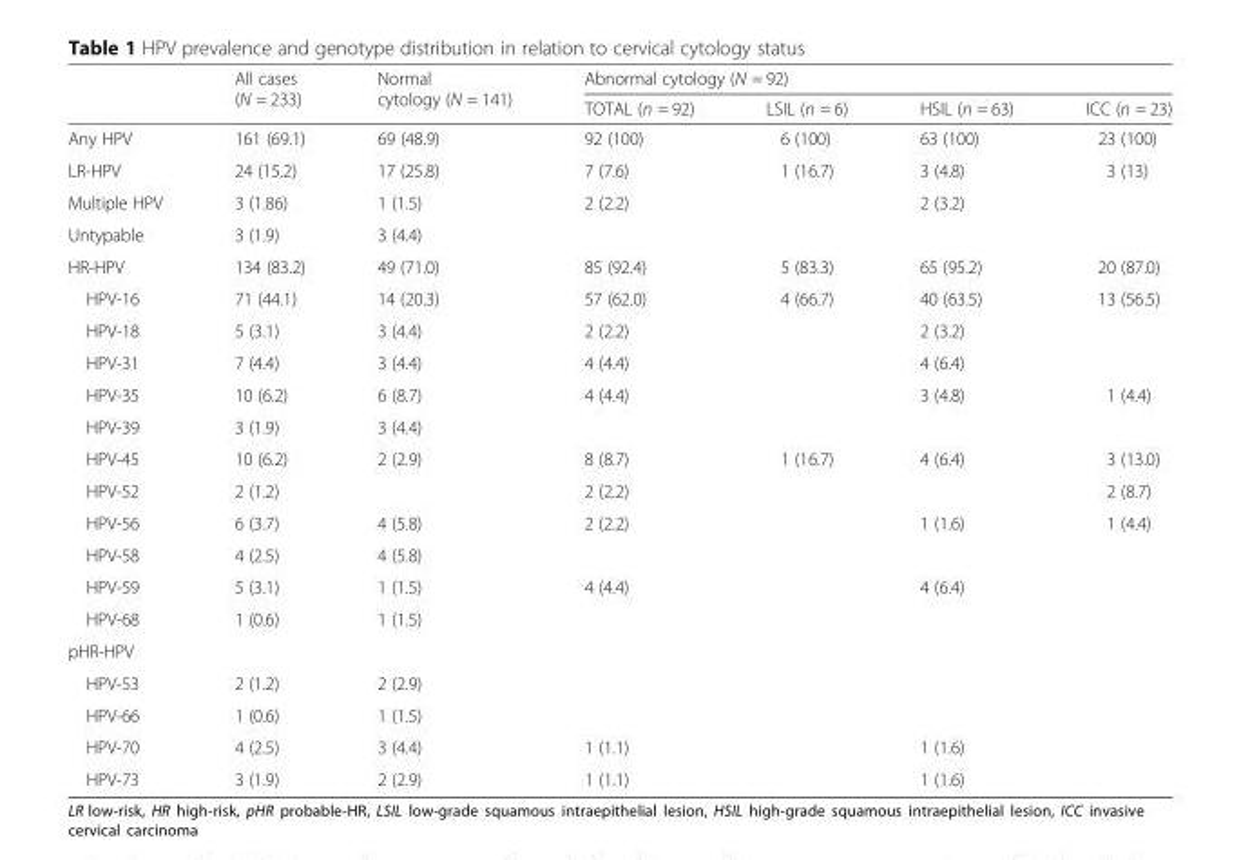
<table><thead><tr><td rowspan="2"></td><td rowspan="2">All cases (N = 233)</td><td rowspan="2">Normal cytology (N = 141)</td><td colspan="4">Abnormal cytology (N = 92)</td></tr><tr><td>TOTAL (n = 92)</td><td>LSIL (n = 6)</td><td>HSIL (n = 63)</td><td>ICC (n = 23)</td></tr></thead><tbody><tr><td>Any HPV</td><td>161 (69.1)</td><td>69 (48.9)</td><td>92 (100)</td><td>6 (100)</td><td>63 (100)</td><td>23 (100)</td></tr><tr><td>LR-HPV</td><td>24 (15.2)</td><td>17 (25.8)</td><td>7 (7.6)</td><td>1 (16.7)</td><td>3 (4.8)</td><td>3 (13)</td></tr><tr><td>Multiple HPV</td><td>3 (1.86)</td><td>1 (1.5)</td><td>2 (2.2)</td><td></td><td>2 (3.2)</td><td></td></tr><tr><td>Untypable</td><td>3 (1.9)</td><td>3 (4.4)</td><td></td><td></td><td></td><td></td></tr><tr><td>HR-HPV</td><td>134 (83.2)</td><td>49 (71.0)</td><td>85 (92.4)</td><td>5 (83.3)</td><td>65 (95.2)</td><td>20 (87.0)</td></tr><tr><td>HPV-16</td><td>71 (44.1)</td><td>14 (20.3)</td><td>57 (62.0)</td><td>4 (66.7)</td><td>40 (63.5)</td><td>13 (56.5)</td></tr><tr><td>HPV-18</td><td>5 (3.1)</td><td>3 (4.4)</td><td>2 (2.2)</td><td></td><td>2 (3.2)</td><td></td></tr><tr><td>HPV-31</td><td>7 (4.4)</td><td>3 (4.4)</td><td>4 (4.4)</td><td></td><td>4 (6.4)</td><td></td></tr><tr><td>HPV-35</td><td>10 (6.2)</td><td>6 (8.7)</td><td>4 (4.4)</td><td></td><td>3 (4.8)</td><td>1 (4.4)</td></tr><tr><td>HPV-39</td><td>3 (1.9)</td><td>3 (4.4)</td><td></td><td></td><td></td><td></td></tr><tr><td>HPV-45</td><td>10 (6.2)</td><td>2 (2.9)</td><td>8 (8.7)</td><td>1 (16.7)</td><td>4 (6.4)</td><td>3 (13.0)</td></tr><tr><td>HPV-52</td><td>2 (1.2)</td><td></td><td>2 (2.2)</td><td></td><td></td><td>2 (8.7)</td></tr><tr><td>HPV-56</td><td>6 (3.7)</td><td>4 (5.8)</td><td>2 (2.2)</td><td></td><td>1 (1.6)</td><td>1 (4.4)</td></tr><tr><td>HPV-58</td><td>4 (2.5)</td><td>4 (5.8)</td><td></td><td></td><td></td><td></td></tr><tr><td>HPV-59</td><td>5 (3.1)</td><td>1 (1.5)</td><td>4 (4.4)</td><td></td><td>4 (6.4)</td><td></td></tr><tr><td>HPV-68</td><td>1 (0.6)</td><td>1 (1.5)</td><td></td><td></td><td></td><td></td></tr><tr><td colspan="7">pHR-HPV</td></tr><tr><td>HPV-53</td><td>2 (1.2)</td><td>2 (2.9)</td><td></td><td></td><td></td><td></td></tr><tr><td>HPV-66</td><td>1 (0.6)</td><td>1 (1.5)</td><td></td><td></td><td></td><td></td></tr><tr><td>HPV-70</td><td>4 (2.5)</td><td>3 (4.4)</td><td>1 (1.1)</td><td></td><td>1 (1.6)</td><td></td></tr><tr><td>HPV-73</td><td>3 (1.9)</td><td>2 (2.9)</td><td>1 (1.1)</td><td></td><td>1 (1.6)</td><td></td></tr></tbody></table>